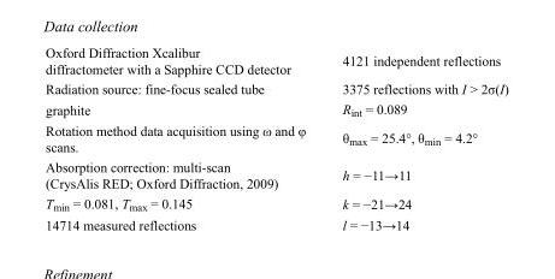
<table><tbody><tr><td>Oxford Diffraction Xcalibur diffractometer with a Sapphire CCD detector</td><td>4121 independent reflections</td></tr><tr><td>Radiation source: fine-focus sealed tube</td><td>3375 reflections with I &gt; 2σ(I)</td></tr><tr><td>graphite</td><td>R<sub>int</sub> = 0.089</td></tr><tr><td>Rotation method data acquisition using ω and φ scans.</td><td>θ<sub>max</sub> = 25.4°, θ<sub>min</sub> = 4.2°</td></tr><tr><td>Absorption correction: multi-scan (CrysAlis RED; Oxford Diffraction, 2009)</td><td>h = −11→11</td></tr><tr><td>T<sub>min</sub> = 0.081, T<sub>max</sub> = 0.145</td><td>k = −21→24</td></tr><tr><td>14714 measured reflections</td><td>l = −13→14</td></tr></tbody></table>